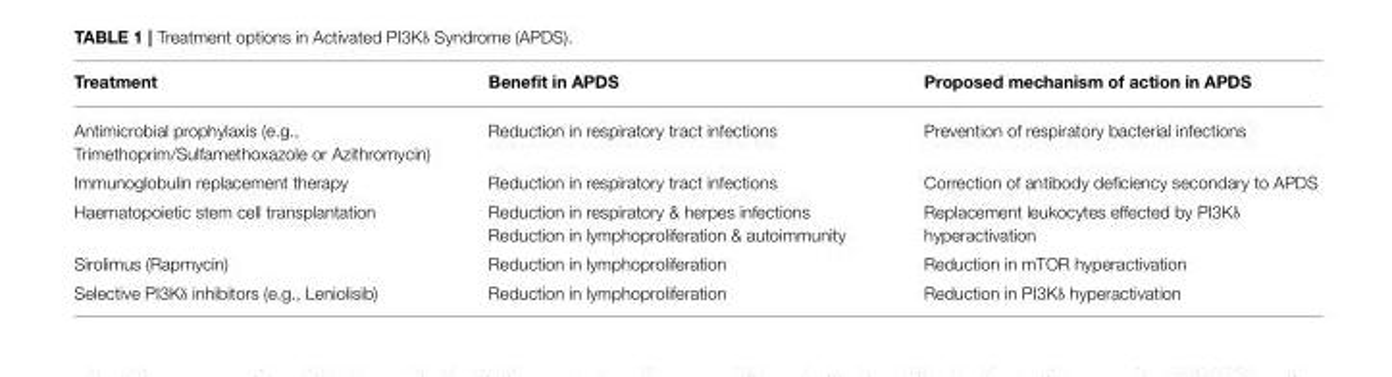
<table><thead><tr><td>Treatment</td><td>Benefit in APDS</td><td>Proposed mechanism of action in APDS</td></tr></thead><tbody><tr><td>Antimicrobial prophylaxis (e.g., Trimethoprim/Sulfamethoxazole or Azithromycin)</td><td>Reduction in respiratory tract infections</td><td>Prevention of respiratory bacterial infections</td></tr><tr><td>Immunoglobulin replacement therapy</td><td>Reduction in respiratory tract infections</td><td>Correction of antibody deficiency secondary to APDS</td></tr><tr><td>Haematopoietic stem cell transplantation</td><td>Reduction in respiratory &amp; herpes infections Reduction in lymphoproliferation &amp; autoimmunity</td><td>Replacement leukocytes effected by PI3Kδ hyperactivation</td></tr><tr><td>Sirolimus (Rapmycin)</td><td>Reduction in lymphoproliferation</td><td>Reduction in mTOR hyperactivation</td></tr><tr><td>Selective PI3Kδ inhibitors (e.g., Leniolisib)</td><td>Reduction in lymphoproliferation</td><td>Reduction in PI3Kδ hyperactivation</td></tr></tbody></table>